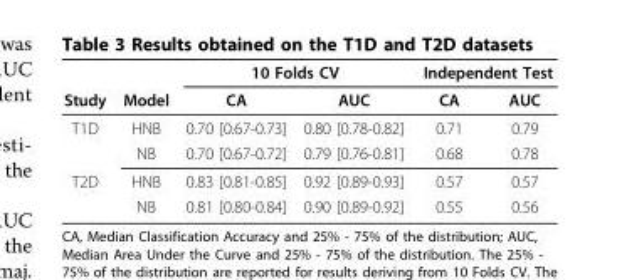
<table><thead><tr><td rowspan="2">Study</td><td rowspan="2">Model</td><td colspan="2">10 Folds CV</td><td colspan="2">Independent Test</td></tr><tr><td>CA</td><td>AUC</td><td>CA</td><td>AUC</td></tr></thead><tbody><tr><td rowspan="2">T1D</td><td>HNB</td><td>0.70 [0.67-0.73]</td><td>0.80 [0.78-0.82]</td><td>0.71</td><td>0.79</td></tr><tr><td>NB</td><td>0.70 [0.67-0.72]</td><td>0.79 [0.76-0.81]</td><td>0.68</td><td>0.78</td></tr><tr><td rowspan="2">T2D</td><td>HNB</td><td>0.83 [0.81-0.85]</td><td>0.92 [0.89-0.93]</td><td>0.57</td><td>0.57</td></tr><tr><td>NB</td><td>0.81 [0.80-0.84]</td><td>0.90 [0.89-0.92]</td><td>0.55</td><td>0.56</td></tr></tbody></table>